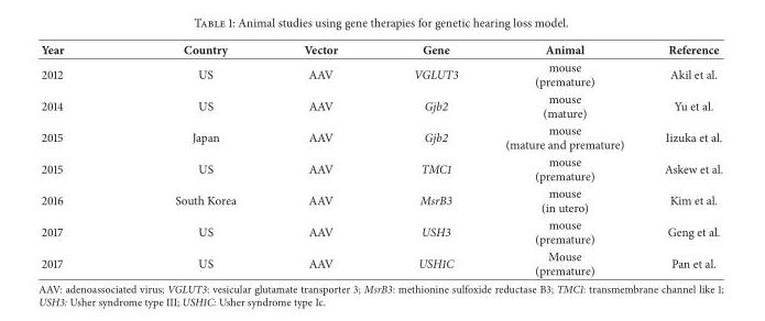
<table><thead><tr><td>Year</td><td>Country</td><td>Vector</td><td>Gene</td><td>Animal</td><td>Reference</td></tr></thead><tbody><tr><td>2012</td><td>US</td><td>AAV</td><td>VGLUT3</td><td>mouse (premature)</td><td>Akil et al.</td></tr><tr><td>2014</td><td>US</td><td>AAV</td><td>Gjb2</td><td>mouse (mature)</td><td>Yu et al.</td></tr><tr><td>2015</td><td>Japan</td><td>AAV</td><td>Gjb2</td><td>mouse (mature and premature)</td><td>Iizuka et al.</td></tr><tr><td>2015</td><td>US</td><td>AAV</td><td>TMC1</td><td>mouse (premature)</td><td>Askew et al.</td></tr><tr><td>2016</td><td>South Korea</td><td>AAV</td><td>MsrB3</td><td>mouse (in utero)</td><td>Kim et al.</td></tr><tr><td>2017</td><td>US</td><td>AAV</td><td>USH3</td><td>mouse (premature)</td><td>Geng et al.</td></tr><tr><td>2017</td><td>US</td><td>AAV</td><td>USH1C</td><td>Mouse (premature)</td><td>Pan et al.</td></tr></tbody></table>